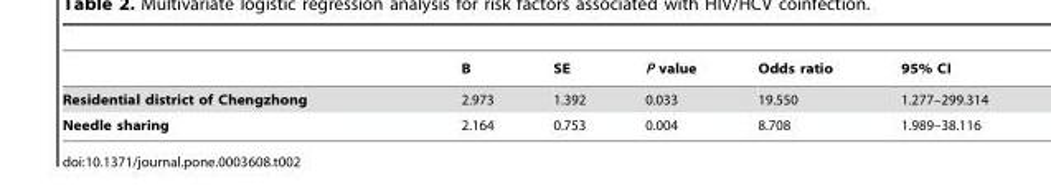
<table><thead><tr><td></td><td>B</td><td>SE</td><td>P value</td><td>Odds ratio</td><td>95% CI</td></tr></thead><tbody><tr><td>Residential district of Chengzhong</td><td>2.973</td><td>1.392</td><td>0.033</td><td>19.550</td><td>1.277–299.314</td></tr><tr><td>Needle sharing</td><td>2.164</td><td>0.753</td><td>0.004</td><td>8.708</td><td>1.989–38.116</td></tr></tbody></table>